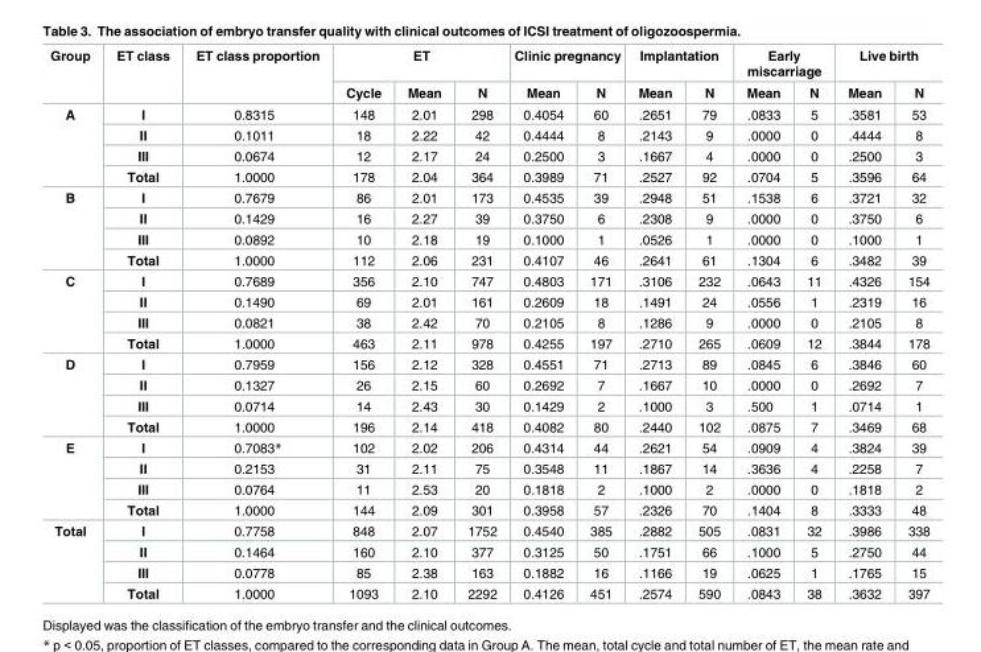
<table><thead><tr><td rowspan="2">Group</td><td rowspan="2">ET class</td><td rowspan="2">ET class proportion</td><td colspan="3">ET</td><td colspan="2">Clinic pregnancy</td><td colspan="2">Implantation</td><td colspan="2">Early miscarriage</td><td colspan="2">Live birth</td></tr><tr><td>Cycle</td><td>Mean</td><td>N</td><td>Mean</td><td>N</td><td>Mean</td><td>N</td><td>Mean</td><td>N</td><td>Mean</td><td>N</td></tr></thead><tbody><tr><td rowspan="4">A</td><td>I</td><td>0.8315</td><td>148</td><td>2.01</td><td>298</td><td>0.4054</td><td>60</td><td>.2651</td><td>79</td><td>.0833</td><td>5</td><td>.3581</td><td>53</td></tr><tr><td>II</td><td>0.1011</td><td>18</td><td>2.22</td><td>42</td><td>0.4444</td><td>8</td><td>.2143</td><td>9</td><td>.0000</td><td>0</td><td>.4444</td><td>8</td></tr><tr><td>III</td><td>0.0674</td><td>12</td><td>2.17</td><td>24</td><td>0.2500</td><td>3</td><td>.1667</td><td>4</td><td>.0000</td><td>0</td><td>.2500</td><td>3</td></tr><tr><td>Total</td><td>1.0000</td><td>178</td><td>2.04</td><td>364</td><td>0.3989</td><td>71</td><td>.2527</td><td>92</td><td>.0704</td><td>5</td><td>.3596</td><td>64</td></tr><tr><td rowspan="4">B</td><td>I</td><td>0.7679</td><td>86</td><td>2.01</td><td>173</td><td>0.4535</td><td>39</td><td>.2948</td><td>51</td><td>.1538</td><td>6</td><td>.3721</td><td>32</td></tr><tr><td>II</td><td>0.1429</td><td>16</td><td>2.27</td><td>39</td><td>0.3750</td><td>6</td><td>.2308</td><td>9</td><td>.0000</td><td>0</td><td>.3750</td><td>6</td></tr><tr><td>III</td><td>0.0892</td><td>10</td><td>2.18</td><td>19</td><td>0.1000</td><td>1</td><td>.0526</td><td>1</td><td>.0000</td><td>0</td><td>.1000</td><td>1</td></tr><tr><td>Total</td><td>1.0000</td><td>112</td><td>2.06</td><td>231</td><td>0.4107</td><td>46</td><td>.2641</td><td>61</td><td>.1304</td><td>6</td><td>.3482</td><td>39</td></tr><tr><td rowspan="4">C</td><td>I</td><td>0.7689</td><td>356</td><td>2.10</td><td>747</td><td>0.4803</td><td>171</td><td>.3106</td><td>232</td><td>.0643</td><td>11</td><td>.4326</td><td>154</td></tr><tr><td>II</td><td>0.1490</td><td>69</td><td>2.01</td><td>161</td><td>0.2609</td><td>18</td><td>.1491</td><td>24</td><td>.0556</td><td>1</td><td>.2319</td><td>16</td></tr><tr><td>III</td><td>0.0821</td><td>38</td><td>2.42</td><td>70</td><td>0.2105</td><td>8</td><td>.1286</td><td>9</td><td>.0000</td><td>0</td><td>.2105</td><td>8</td></tr><tr><td>Total</td><td>1.0000</td><td>463</td><td>2.11</td><td>978</td><td>0.4255</td><td>197</td><td>.2710</td><td>265</td><td>.0609</td><td>12</td><td>.3844</td><td>178</td></tr><tr><td rowspan="4">D</td><td>I</td><td>0.7959</td><td>156</td><td>2.12</td><td>328</td><td>0.4551</td><td>71</td><td>.2713</td><td>89</td><td>.0845</td><td>6</td><td>.3846</td><td>60</td></tr><tr><td>II</td><td>0.1327</td><td>26</td><td>2.15</td><td>60</td><td>0.2692</td><td>7</td><td>.1667</td><td>10</td><td>.0000</td><td>0</td><td>.2692</td><td>7</td></tr><tr><td>III</td><td>0.0714</td><td>14</td><td>2.43</td><td>30</td><td>0.1429</td><td>2</td><td>.1000</td><td>3</td><td>.500</td><td>1</td><td>.0714</td><td>1</td></tr><tr><td>Total</td><td>1.0000</td><td>196</td><td>2.14</td><td>418</td><td>0.4082</td><td>80</td><td>.2440</td><td>102</td><td>.0875</td><td>7</td><td>.3469</td><td>68</td></tr><tr><td rowspan="4">E</td><td>I</td><td>0.7083*</td><td>102</td><td>2.02</td><td>206</td><td>0.4314</td><td>44</td><td>.2621</td><td>54</td><td>.0909</td><td>4</td><td>.3824</td><td>39</td></tr><tr><td>II</td><td>0.2153</td><td>31</td><td>2.11</td><td>75</td><td>0.3548</td><td>11</td><td>.1867</td><td>14</td><td>.3636</td><td>4</td><td>.2258</td><td>7</td></tr><tr><td>III</td><td>0.0764</td><td>11</td><td>2.53</td><td>20</td><td>0.1818</td><td>2</td><td>.1000</td><td>2</td><td>.0000</td><td>0</td><td>.1818</td><td>2</td></tr><tr><td>Total</td><td>1.0000</td><td>144</td><td>2.09</td><td>301</td><td>0.3958</td><td>57</td><td>.2326</td><td>70</td><td>.1404</td><td>8</td><td>.3333</td><td>48</td></tr><tr><td rowspan="4">Total</td><td>I</td><td>0.7758</td><td>848</td><td>2.07</td><td>1752</td><td>0.4540</td><td>385</td><td>.2882</td><td>505</td><td>.0831</td><td>32</td><td>.3986</td><td>338</td></tr><tr><td>II</td><td>0.1464</td><td>160</td><td>2.10</td><td>377</td><td>0.3125</td><td>50</td><td>.1751</td><td>66</td><td>.1000</td><td>5</td><td>.2750</td><td>44</td></tr><tr><td>III</td><td>0.0778</td><td>85</td><td>2.38</td><td>163</td><td>0.1882</td><td>16</td><td>.1166</td><td>19</td><td>.0625</td><td>1</td><td>.1765</td><td>15</td></tr><tr><td>Total</td><td>1.0000</td><td>1093</td><td>2.10</td><td>2292</td><td>0.4126</td><td>451</td><td>.2574</td><td>590</td><td>.0843</td><td>38</td><td>.3632</td><td>397</td></tr></tbody></table>